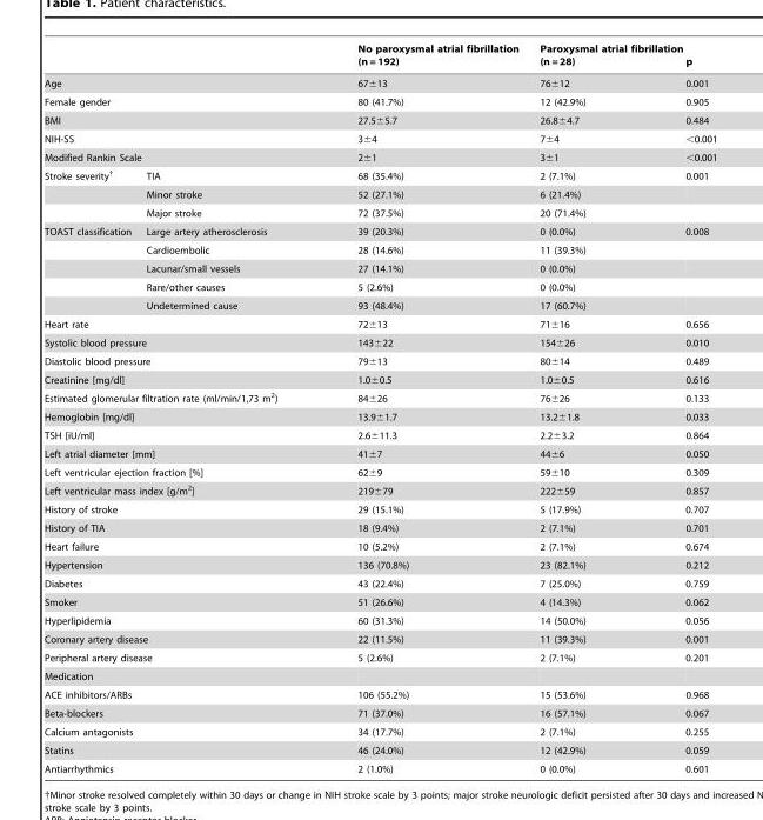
<table><thead><tr><td></td><td></td><td>No paroxysmal atrial fibrillation (n = 192)</td><td>Paroxysmal atrial fibrillation (n = 28)</td><td>p</td></tr></thead><tbody><tr><td colspan="2">Age</td><td>67±13</td><td>76±12</td><td>0.001</td></tr><tr><td colspan="2">Female gender</td><td>80 (41.7%)</td><td>12 (42.9%)</td><td>0.905</td></tr><tr><td colspan="2">BMI</td><td>27.5±5.7</td><td>26.8±4.7</td><td>0.484</td></tr><tr><td colspan="2">NIH-SS</td><td>3±4</td><td>7±4</td><td>&lt;0.001</td></tr><tr><td colspan="2">Modified Rankin Scale</td><td>2±1</td><td>3±1</td><td>&lt;0.001</td></tr><tr><td rowspan="3">Stroke severity†</td><td>TIA</td><td>68 (35.4%)</td><td>2 (7.1%)</td><td>0.001</td></tr><tr><td>Minor stroke</td><td>52 (27.1%)</td><td>6 (21.4%)</td><td></td></tr><tr><td>Major stroke</td><td>72 (37.5%)</td><td>20 (71.4%)</td><td></td></tr><tr><td rowspan="5">TOAST classification</td><td>Large artery atherosclerosis</td><td>39 (20.3%)</td><td>0 (0.0%)</td><td>0.008</td></tr><tr><td>Cardioembolic</td><td>28 (14.6%)</td><td>11 (39.3%)</td><td></td></tr><tr><td>Lacunar/small vessels</td><td>27 (14.1%)</td><td>0 (0.0%)</td><td></td></tr><tr><td>Rare/other causes</td><td>5 (2.6%)</td><td>0 (0.0%)</td><td></td></tr><tr><td>Undetermined cause</td><td>93 (48.4%)</td><td>17 (60.7%)</td><td></td></tr><tr><td colspan="2">Heart rate</td><td>72±13</td><td>71±16</td><td>0.656</td></tr><tr><td colspan="2">Systolic blood pressure</td><td>143±22</td><td>154±26</td><td>0.010</td></tr><tr><td colspan="2">Diastolic blood pressure</td><td>79±13</td><td>80±14</td><td>0.489</td></tr><tr><td colspan="2">Creatinine [mg/dl]</td><td>1.0±0.5</td><td>1.0±0.5</td><td>0.616</td></tr><tr><td colspan="2">Estimated glomerular filtration rate (ml/min/1,73 m<sup>2</sup>)</td><td>84±26</td><td>76±26</td><td>0.133</td></tr><tr><td colspan="2">Hemoglobin [mg/dl]</td><td>13.9±1.7</td><td>13.2±1.8</td><td>0.033</td></tr><tr><td colspan="2">TSH [iU/ml]</td><td>2.6±11.3</td><td>2.2±3.2</td><td>0.864</td></tr><tr><td colspan="2">Left atrial diameter [mm]</td><td>41±7</td><td>44±6</td><td>0.050</td></tr><tr><td colspan="2">Left ventricular ejection fraction [%]</td><td>62±9</td><td>59±10</td><td>0.309</td></tr><tr><td colspan="2">Left ventricular mass index [g/m<sup>2</sup>]</td><td>219±79</td><td>222±59</td><td>0.857</td></tr><tr><td colspan="2">History of stroke</td><td>29 (15.1%)</td><td>5 (17.9%)</td><td>0.707</td></tr><tr><td colspan="2">History of TIA</td><td>18 (9.4%)</td><td>2 (7.1%)</td><td>0.701</td></tr><tr><td colspan="2">Heart failure</td><td>10 (5.2%)</td><td>2 (7.1%)</td><td>0.674</td></tr><tr><td colspan="2">Hypertension</td><td>136 (70.8%)</td><td>23 (82.1%)</td><td>0.212</td></tr><tr><td colspan="2">Diabetes</td><td>43 (22.4%)</td><td>7 (25.0%)</td><td>0.759</td></tr><tr><td colspan="2">Smoker</td><td>51 (26.6%)</td><td>4 (14.3%)</td><td>0.062</td></tr><tr><td colspan="2">Hyperlipidemia</td><td>60 (31.3%)</td><td>14 (50.0%)</td><td>0.056</td></tr><tr><td colspan="2">Coronary artery disease</td><td>22 (11.5%)</td><td>11 (39.3%)</td><td>0.001</td></tr><tr><td colspan="2">Peripheral artery disease</td><td>5 (2.6%)</td><td>2 (7.1%)</td><td>0.201</td></tr><tr><td colspan="5">Medication</td></tr><tr><td colspan="2">ACE inhibitors/ARBs</td><td>106 (55.2%)</td><td>15 (53.6%)</td><td>0.968</td></tr><tr><td colspan="2">Beta-blockers</td><td>71 (37.0%)</td><td>16 (57.1%)</td><td>0.067</td></tr><tr><td colspan="2">Calcium antagonists</td><td>34 (17.7%)</td><td>2 (7.1%)</td><td>0.255</td></tr><tr><td colspan="2">Statins</td><td>46 (24.0%)</td><td>12 (42.9%)</td><td>0.059</td></tr><tr><td colspan="2">Antiarrhythmics</td><td>2 (1.0%)</td><td>0 (0.0%)</td><td>0.601</td></tr></tbody></table>